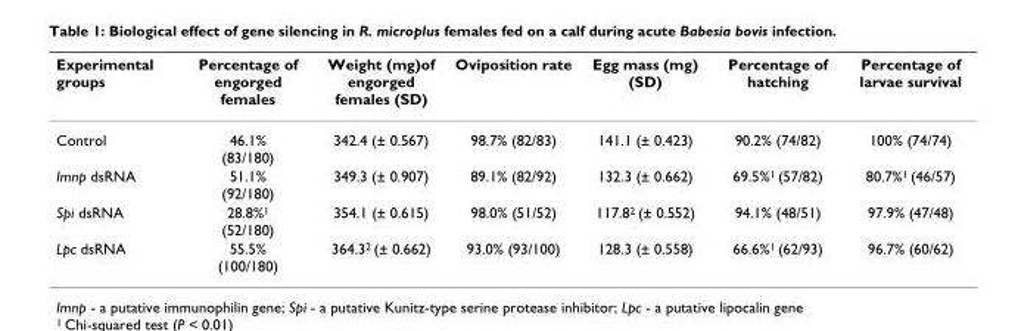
<table><thead><tr><td>Experimental groups</td><td>Percentage of engorged females</td><td>Weight (mg)of engorged females (SD)</td><td>Oviposition rate</td><td>Egg mass (mg) (SD)</td><td>Percentage of hatching</td><td>Percentage of larvae survival</td></tr></thead><tbody><tr><td>Control</td><td>46.1% (83/180)</td><td>342.4 (± 0.567)</td><td>98.7% (82/83)</td><td>141.1 (± 0.423)</td><td>90.2% (74/82)</td><td>100% (74/74)</td></tr><tr><td>Imnp dsRNA</td><td>51.1% (92/180)</td><td>349.3 (± 0.907)</td><td>89.1% (82/92)</td><td>132.3 (± 0.662)</td><td>69.5%<sup>1</sup> (57/82)</td><td>80.7%<sup>1</sup> (46/57)</td></tr><tr><td>Spi dsRNA</td><td>28.8%<sup>1</sup> (52/180)</td><td>354.1 (± 0.615)</td><td>98.0% (51/52)</td><td>117.8<sup>2</sup> (± 0.552)</td><td>94.1% (48/51)</td><td>97.9% (47/48)</td></tr><tr><td>Lpc dsRNA</td><td>55.5% (100/180)</td><td>364.3<sup>2</sup> (± 0.662)</td><td>93.0% (93/100)</td><td>128.3 (± 0.558)</td><td>66.6%<sup>1</sup> (62/93)</td><td>96.7% (60/62)</td></tr></tbody></table>